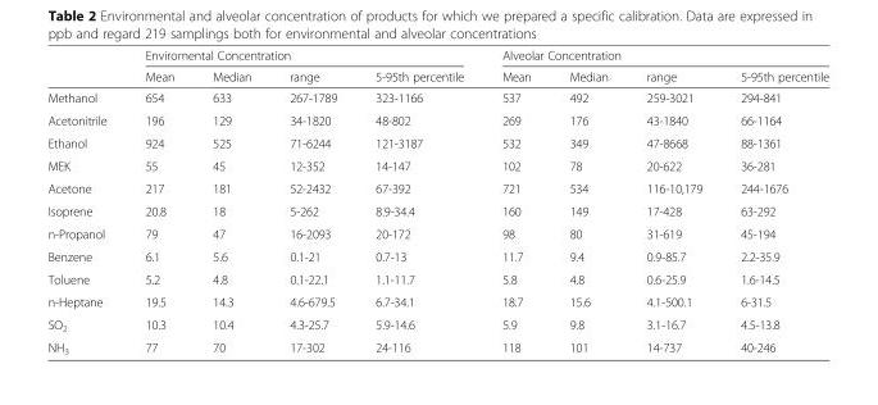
<table><thead><tr><td rowspan="2"></td><td colspan="4">Enviromental Concentration</td><td colspan="4">Alveolar Concentration</td></tr><tr><td>Mean</td><td>Median</td><td>range</td><td>5-95th percentile</td><td>Mean</td><td>Median</td><td>range</td><td>5-95th percentile</td></tr></thead><tbody><tr><td>Methanol</td><td>654</td><td>633</td><td>267-1789</td><td>323-1166</td><td>537</td><td>492</td><td>259-3021</td><td>294-841</td></tr><tr><td>Acetonitrile</td><td>196</td><td>129</td><td>34-1820</td><td>48-802</td><td>269</td><td>176</td><td>43-1840</td><td>66-1164</td></tr><tr><td>Ethanol</td><td>924</td><td>525</td><td>71-6244</td><td>121-3187</td><td>532</td><td>349</td><td>47-8668</td><td>88-1361</td></tr><tr><td>MEK</td><td>55</td><td>45</td><td>12-352</td><td>14-147</td><td>102</td><td>78</td><td>20-622</td><td>36-281</td></tr><tr><td>Acetone</td><td>217</td><td>181</td><td>52-2432</td><td>67-392</td><td>721</td><td>534</td><td>116-10,179</td><td>244-1676</td></tr><tr><td>Isoprene</td><td>20.8</td><td>18</td><td>5-262</td><td>8.9-34.4</td><td>160</td><td>149</td><td>17-428</td><td>63-292</td></tr><tr><td>n-Propanol</td><td>79</td><td>47</td><td>16-2093</td><td>20-172</td><td>98</td><td>80</td><td>31-619</td><td>45-194</td></tr><tr><td>Benzene</td><td>6.1</td><td>5.6</td><td>0.1-21</td><td>0.7-13</td><td>11.7</td><td>9.4</td><td>0.9-85.7</td><td>2.2-35.9</td></tr><tr><td>Toluene</td><td>5.2</td><td>4.8</td><td>0.1-22.1</td><td>1.1-11.7</td><td>5.8</td><td>4.8</td><td>0.6-25.9</td><td>1.6-14.5</td></tr><tr><td>n-Heptane</td><td>19.5</td><td>14.3</td><td>4.6-679.5</td><td>6.7-34.1</td><td>18.7</td><td>15.6</td><td>4.1-500.1</td><td>6-31.5</td></tr><tr><td>SO<sub>2</sub></td><td>10.3</td><td>10.4</td><td>4.3-25.7</td><td>5.9-14.6</td><td>5.9</td><td>9.8</td><td>3.1-16.7</td><td>4.5-13.8</td></tr><tr><td>NH<sub>3</sub></td><td>77</td><td>70</td><td>17-302</td><td>24-116</td><td>118</td><td>101</td><td>14-737</td><td>40-246</td></tr></tbody></table>